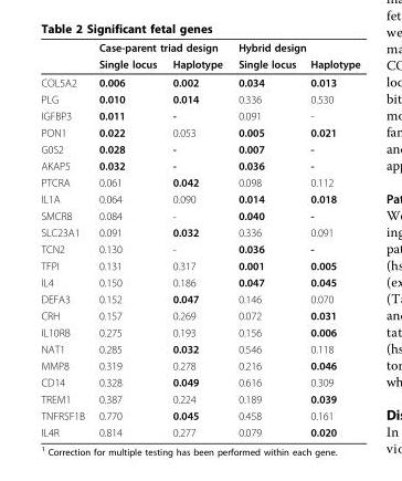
<table><thead><tr><td rowspan="2"></td><td colspan="2">Case-parent triad design</td><td colspan="2">Hybrid design</td></tr><tr><td>Single locus</td><td>Haplotype</td><td>Single locus</td><td>Haplotype</td></tr></thead><tbody><tr><td>COL5A2</td><td>0.006</td><td>0.002</td><td>0.034</td><td>0.013</td></tr><tr><td>PLG</td><td>0.010</td><td>0.014</td><td>0.336</td><td>0.530</td></tr><tr><td>IGFBP3</td><td>0.011</td><td>-</td><td>0.091</td><td>-</td></tr><tr><td>PON1</td><td>0.022</td><td>0.053</td><td>0.005</td><td>0.021</td></tr><tr><td>G0S2</td><td>0.028</td><td>-</td><td>0.007</td><td>-</td></tr><tr><td>AKAP5</td><td>0.032</td><td>-</td><td>0.036</td><td>-</td></tr><tr><td>PTCRA</td><td>0.061</td><td>0.042</td><td>0.098</td><td>0.112</td></tr><tr><td>IL1A</td><td>0.064</td><td>0.090</td><td>0.014</td><td>0.018</td></tr><tr><td>SMCR8</td><td>0.084</td><td>-</td><td>0.040</td><td>-</td></tr><tr><td>SLC23A1</td><td>0.091</td><td>0.032</td><td>0.336</td><td>0.091</td></tr><tr><td>TCN2</td><td>0.130</td><td>-</td><td>0.036</td><td>-</td></tr><tr><td>TFPI</td><td>0.131</td><td>0.317</td><td>0.001</td><td>0.005</td></tr><tr><td>IL4</td><td>0.150</td><td>0.186</td><td>0.047</td><td>0.045</td></tr><tr><td>DEFA3</td><td>0.152</td><td>0.047</td><td>0.146</td><td>0.070</td></tr><tr><td>CRH</td><td>0.157</td><td>0.269</td><td>0.072</td><td>0.031</td></tr><tr><td>IL10RB</td><td>0.275</td><td>0.193</td><td>0.156</td><td>0.006</td></tr><tr><td>NAT1</td><td>0.285</td><td>0.032</td><td>0.546</td><td>0.118</td></tr><tr><td>MMP8</td><td>0.319</td><td>0.278</td><td>0.216</td><td>0.046</td></tr><tr><td>CD14</td><td>0.328</td><td>0.049</td><td>0.616</td><td>0.309</td></tr><tr><td>TREM1</td><td>0.387</td><td>0.224</td><td>0.189</td><td>0.039</td></tr><tr><td>TNFRSF1B</td><td>0.770</td><td>0.045</td><td>0.458</td><td>0.161</td></tr><tr><td>IL4R</td><td>0.814</td><td>0.277</td><td>0.079</td><td>0.020</td></tr></tbody></table>